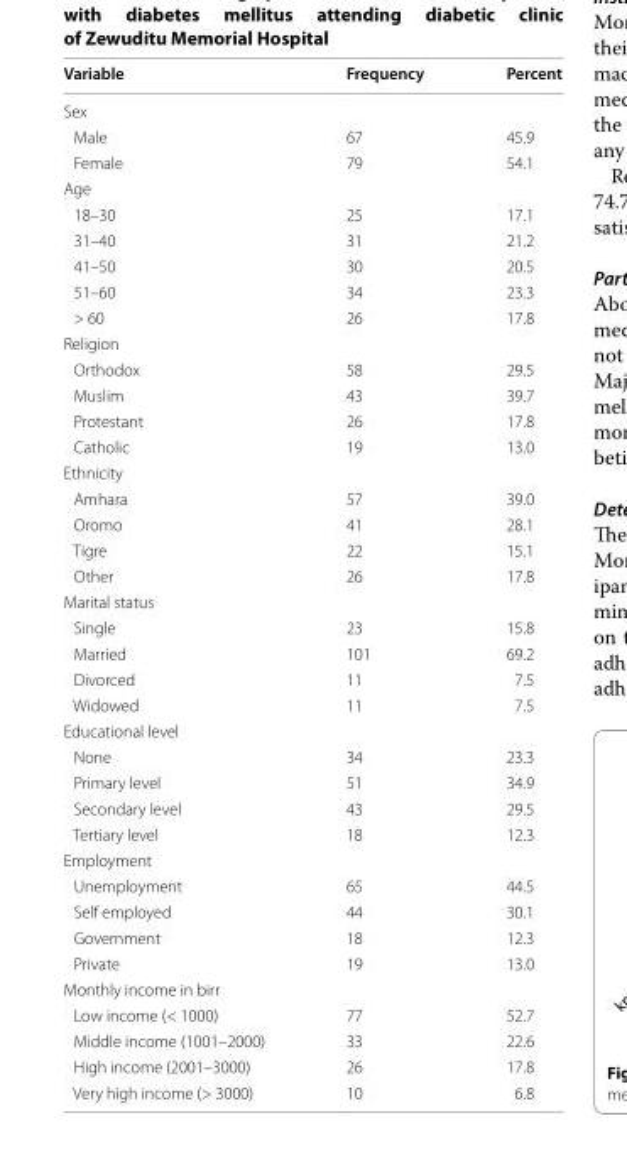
<table><thead><tr><td>Variable</td><td>Frequency</td><td>Percent</td></tr></thead><tbody><tr><td colspan="3">Sex</td></tr><tr><td>Male</td><td>67</td><td>45.9</td></tr><tr><td>Female</td><td>79</td><td>54.1</td></tr><tr><td colspan="3">Age</td></tr><tr><td>18–30</td><td>25</td><td>17.1</td></tr><tr><td>31–40</td><td>31</td><td>21.2</td></tr><tr><td>41–50</td><td>30</td><td>20.5</td></tr><tr><td>51–60</td><td>34</td><td>23.3</td></tr><tr><td>&gt; 60</td><td>26</td><td>17.8</td></tr><tr><td colspan="3">Religion</td></tr><tr><td>Orthodox</td><td>58</td><td>29.5</td></tr><tr><td>Muslim</td><td>43</td><td>39.7</td></tr><tr><td>Protestant</td><td>26</td><td>17.8</td></tr><tr><td>Catholic</td><td>19</td><td>13.0</td></tr><tr><td colspan="3">Ethnicity</td></tr><tr><td>Amhara</td><td>57</td><td>39.0</td></tr><tr><td>Oromo</td><td>41</td><td>28.1</td></tr><tr><td>Tigre</td><td>22</td><td>15.1</td></tr><tr><td>Other</td><td>26</td><td>17.8</td></tr><tr><td colspan="3">Marital status</td></tr><tr><td>Single</td><td>23</td><td>15.8</td></tr><tr><td>Married</td><td>101</td><td>69.2</td></tr><tr><td>Divorced</td><td>11</td><td>7.5</td></tr><tr><td>Widowed</td><td>11</td><td>7.5</td></tr><tr><td colspan="3">Educational level</td></tr><tr><td>None</td><td>34</td><td>23.3</td></tr><tr><td>Primary level</td><td>51</td><td>34.9</td></tr><tr><td>Secondary level</td><td>43</td><td>29.5</td></tr><tr><td>Tertiary level</td><td>18</td><td>12.3</td></tr><tr><td colspan="3">Employment</td></tr><tr><td>Unemployment</td><td>65</td><td>44.5</td></tr><tr><td>Self employed</td><td>44</td><td>30.1</td></tr><tr><td>Government</td><td>18</td><td>12.3</td></tr><tr><td>Private</td><td>19</td><td>13.0</td></tr><tr><td colspan="3">Monthly income in birr</td></tr><tr><td>Low income (&lt; 1000)</td><td>77</td><td>52.7</td></tr><tr><td>Middle income (1001–2000)</td><td>33</td><td>22.6</td></tr><tr><td>High income (2001–3000)</td><td>26</td><td>17.8</td></tr><tr><td>Very high income (&gt; 3000)</td><td>10</td><td>6.8</td></tr></tbody></table>